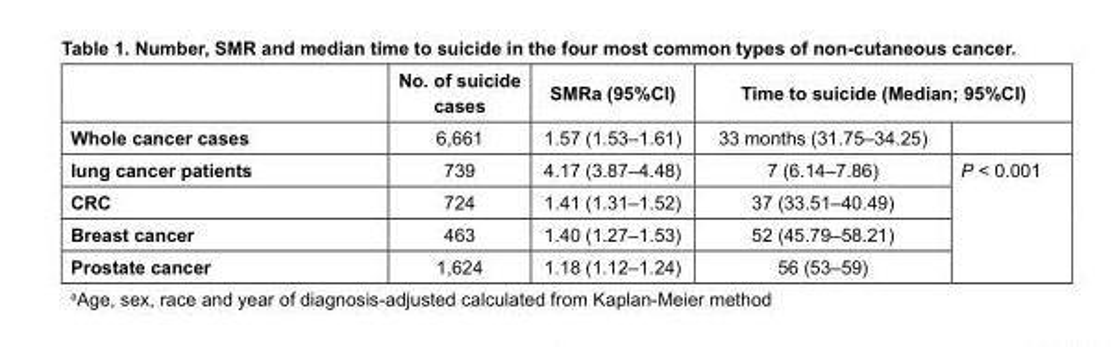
<table><thead><tr><td rowspan="2">Whole cancer cases</td><td rowspan="2">No. of suicide cases 6,661</td><td rowspan="2">SMR<sup>a</sup> (95%CI) 1.57 (1.53–1.61)</td><td colspan="2">Time to suicide (Median; 95%CI)</td></tr><tr><td>33 months (31.75–34.25)</td><td></td></tr></thead><tbody><tr><td>lung cancer patients</td><td>739</td><td>4.17 (3.87–4.48)</td><td>7 (6.14–7.86)</td><td rowspan="4">P &lt; 0.001</td></tr><tr><td>CRC</td><td>724</td><td>1.41 (1.31–1.52)</td><td>37 (33.51–40.49)</td></tr><tr><td>Breast cancer</td><td>463</td><td>1.40 (1.27–1.53)</td><td>52 (45.79–58.21)</td></tr><tr><td>Prostate cancer</td><td>1,624</td><td>1.18 (1.12–1.24)</td><td>56 (53–59)</td></tr></tbody></table>